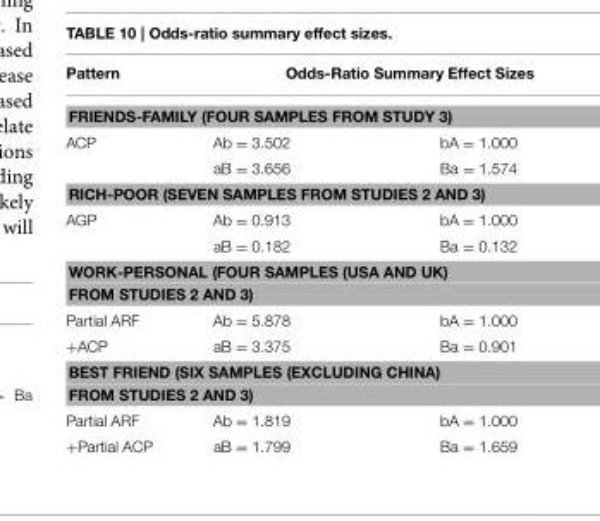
<table><thead><tr><td>Pattern</td><td colspan="2">Odds-Ratio Summary Effect Sizes</td></tr><tr><td colspan="3">FRIENDS-FAMILY (FOUR SAMPLES FROM STUDY 3)</td></tr><tr><td>ACP</td><td>Ab = 3.502</td><td>bA = 1.000</td></tr></thead><tbody><tr><td></td><td>aB = 3.656</td><td>Ba = 1.574</td></tr><tr><td colspan="3">RICH-POOR (SEVEN SAMPLES FROM STUDIES 2 AND 3)</td></tr><tr><td rowspan="2">AGP</td><td>Ab = 0.913</td><td>bA = 1.000</td></tr><tr><td>aB = 0.182</td><td>Ba = 0.132</td></tr><tr><td colspan="3">WORK-PERSONAL (FOUR SAMPLES (USA AND UK) FROM STUDIES 2 AND 3)</td></tr><tr><td>Partial ARF</td><td>Ab = 5.878</td><td>bA = 1.000</td></tr><tr><td>+ACP</td><td>aB = 3.375</td><td>Ba = 0.901</td></tr><tr><td colspan="3">BEST FRIEND (SIX SAMPLES (EXCLUDING CHINA) FROM STUDIES 2 AND 3)</td></tr><tr><td>Partial ARF</td><td>Ab = 1.819</td><td>bA = 1.000</td></tr><tr><td>+Partial ACP</td><td>aB = 1.799</td><td>Ba = 1.659</td></tr></tbody></table>